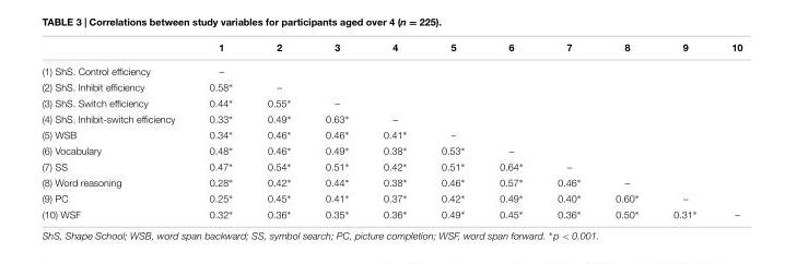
<table><thead><tr><td></td><td>1</td><td>2</td><td>3</td><td>4</td><td>5</td><td>6</td><td>7</td><td>8</td><td>9</td><td>10</td></tr></thead><tbody><tr><td>(1) ShS. Control efficiency</td><td>–</td><td></td><td></td><td></td><td></td><td></td><td></td><td></td><td></td><td></td></tr><tr><td>(2) ShS. Inhibit efficiency</td><td>0.58∗</td><td>–</td><td></td><td></td><td></td><td></td><td></td><td></td><td></td><td></td></tr><tr><td>(3) ShS. Switch efficiency</td><td>0.44∗</td><td>0.55∗</td><td>–</td><td></td><td></td><td></td><td></td><td></td><td></td><td></td></tr><tr><td>(4) ShS. Inhibit-switch efficiency</td><td>0.33∗</td><td>0.49∗</td><td>0.63∗</td><td>–</td><td></td><td></td><td></td><td></td><td></td><td></td></tr><tr><td>(5) WSB</td><td>0.34∗</td><td>0.46∗</td><td>0.46∗</td><td>0.41∗</td><td>–</td><td></td><td></td><td></td><td></td><td></td></tr><tr><td>(6) Vocabulary</td><td>0.48∗</td><td>0.46∗</td><td>0.49∗</td><td>0.38∗</td><td>0.53∗</td><td>–</td><td></td><td></td><td></td><td></td></tr><tr><td>(7) SS</td><td>0.47∗</td><td>0.54∗</td><td>0.51∗</td><td>0.42∗</td><td>0.51∗</td><td>0.64∗</td><td>–</td><td></td><td></td><td></td></tr><tr><td>(8) Word reasoning</td><td>0.28∗</td><td>0.42∗</td><td>0.44∗</td><td>0.38∗</td><td>0.46∗</td><td>0.57∗</td><td>0.46∗</td><td>–</td><td></td><td></td></tr><tr><td>(9) PC</td><td>0.25∗</td><td>0.45∗</td><td>0.41∗</td><td>0.37∗</td><td>0.42∗</td><td>0.49∗</td><td>0.40∗</td><td>0.60∗</td><td>–</td><td></td></tr><tr><td>(10) WSF</td><td>0.32∗</td><td>0.36∗</td><td>0.35∗</td><td>0.36∗</td><td>0.49∗</td><td>0.45∗</td><td>0.36∗</td><td>0.50∗</td><td>0.31∗</td><td>–</td></tr></tbody></table>